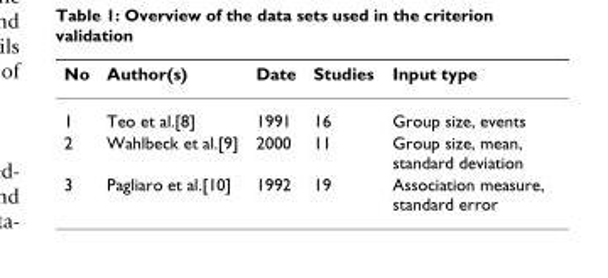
<table><thead><tr><td>No</td><td>Author(s)</td><td>Date</td><td>Studies</td><td>Input type</td></tr></thead><tbody><tr><td>1</td><td>Teo et al.[8]</td><td>1991</td><td>16</td><td>Group size, events</td></tr><tr><td>2</td><td>Wahlbeck et al.[9]</td><td>2000</td><td>11</td><td>Group size, mean, standard deviation</td></tr><tr><td>3</td><td>Pagliaro et al.[10]</td><td>1992</td><td>19</td><td>Association measure, standard error</td></tr></tbody></table>